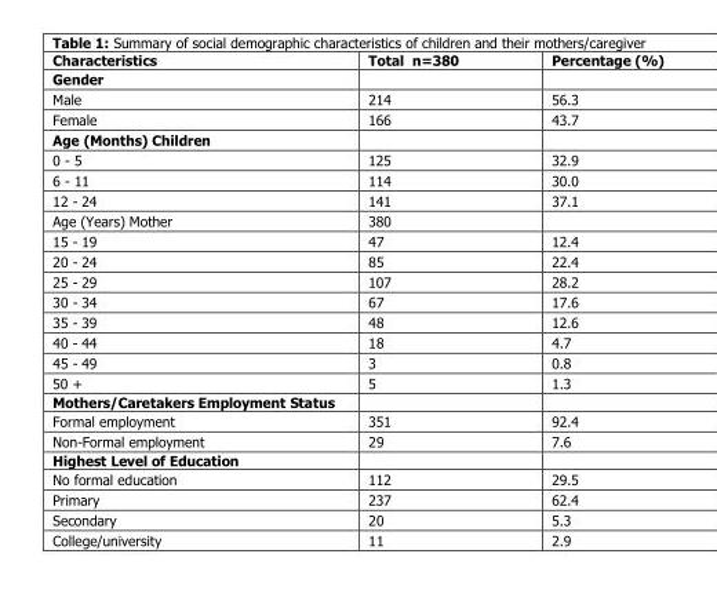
<table><thead><tr><td>Characteristics</td><td>Total n=380</td><td>Percentage (%)</td></tr></thead><tbody><tr><td colspan="3">Gender</td></tr><tr><td>Male</td><td>214</td><td>56.3</td></tr><tr><td>Female</td><td>166</td><td>43.7</td></tr><tr><td colspan="3">Age (Months) Children</td></tr><tr><td>0 - 5</td><td>125</td><td>32.9</td></tr><tr><td>6 - 11</td><td>114</td><td>30.0</td></tr><tr><td>12 - 24</td><td>141</td><td>37.1</td></tr><tr><td>Age (Years) Mother</td><td>380</td><td></td></tr><tr><td>15 - 19</td><td>47</td><td>12.4</td></tr><tr><td>20 - 24</td><td>85</td><td>22.4</td></tr><tr><td>25 - 29</td><td>107</td><td>28.2</td></tr><tr><td>30 - 34</td><td>67</td><td>17.6</td></tr><tr><td>35 - 39</td><td>48</td><td>12.6</td></tr><tr><td>40 - 44</td><td>18</td><td>4.7</td></tr><tr><td>45 - 49</td><td>3</td><td>0.8</td></tr><tr><td>50 +</td><td>5</td><td>1.3</td></tr><tr><td colspan="3">Mothers/Caretakers Employment Status</td></tr><tr><td>Formal employment</td><td>351</td><td>92.4</td></tr><tr><td>Non-Formal employment</td><td>29</td><td>7.6</td></tr><tr><td colspan="3">Highest Level of Education</td></tr><tr><td>No formal education</td><td>112</td><td>29.5</td></tr><tr><td>Primary</td><td>237</td><td>62.4</td></tr><tr><td>Secondary</td><td>20</td><td>5.3</td></tr><tr><td>College/university</td><td>11</td><td>2.9</td></tr></tbody></table>